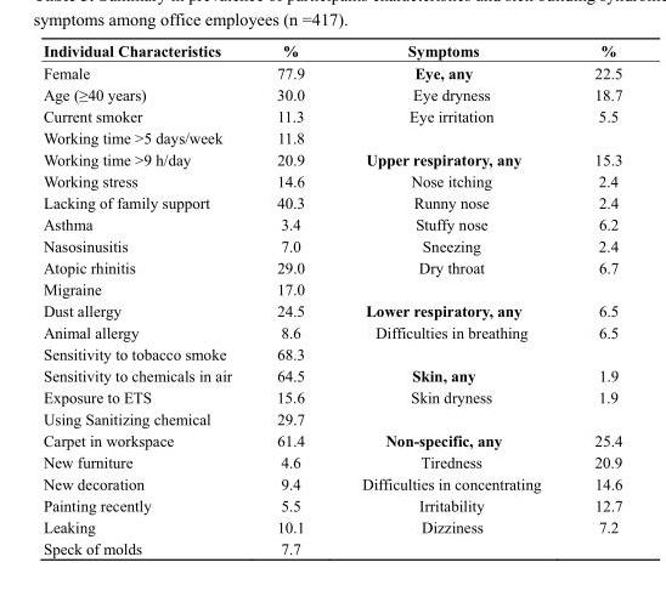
<table><thead><tr><td>Individual Characteristics</td><td>%</td><td>Symptoms</td><td>%</td></tr></thead><tbody><tr><td>Female</td><td>77.9</td><td>Eye, any</td><td>22.5</td></tr><tr><td>Age (≥40 years)</td><td>30.0</td><td>Eye dryness</td><td>18.7</td></tr><tr><td>Current smoker</td><td>11.3</td><td>Eye irritation</td><td>5.5</td></tr><tr><td>Working time &gt;5 days/week</td><td>11.8</td><td></td><td></td></tr><tr><td>Working time &gt;9 h/day</td><td>20.9</td><td>Upper respiratory, any</td><td>15.3</td></tr><tr><td>Working stress</td><td>14.6</td><td>Nose itching</td><td>2.4</td></tr><tr><td>Lacking of family support</td><td>40.3</td><td>Runny nose</td><td>2.4</td></tr><tr><td>Asthma</td><td>3.4</td><td>Stuffy nose</td><td>6.2</td></tr><tr><td>Nasosinusitis</td><td>7.0</td><td>Sneezing</td><td>2.4</td></tr><tr><td>Atopic rhinitis</td><td>29.0</td><td>Dry throat</td><td>6.7</td></tr><tr><td>Migraine</td><td>17.0</td><td></td><td></td></tr><tr><td>Dust allergy</td><td>24.5</td><td>Lower respiratory, any</td><td>6.5</td></tr><tr><td>Animal allergy</td><td>8.6</td><td>Difficulties in breathing</td><td>6.5</td></tr><tr><td>Sensitivity to tobacco smoke</td><td>68.3</td><td></td><td></td></tr><tr><td>Sensitivity to chemicals in air</td><td>64.5</td><td>Skin, any</td><td>1.9</td></tr><tr><td>Exposure to ETS</td><td>15.6</td><td>Skin dryness</td><td>1.9</td></tr><tr><td>Using Sanitizing chemical</td><td>29.7</td><td></td><td></td></tr><tr><td>Carpet in workspace</td><td>61.4</td><td>Non-specific, any</td><td>25.4</td></tr><tr><td>New furniture</td><td>4.6</td><td>Tiredness</td><td>20.9</td></tr><tr><td>New decoration</td><td>9.4</td><td>Difficulties in concentrating</td><td>14.6</td></tr><tr><td>Painting recently</td><td>5.5</td><td>Irritability</td><td>12.7</td></tr><tr><td>Leaking</td><td>10.1</td><td>Dizziness</td><td>7.2</td></tr><tr><td>Speck of molds</td><td>7.7</td><td></td><td></td></tr></tbody></table>